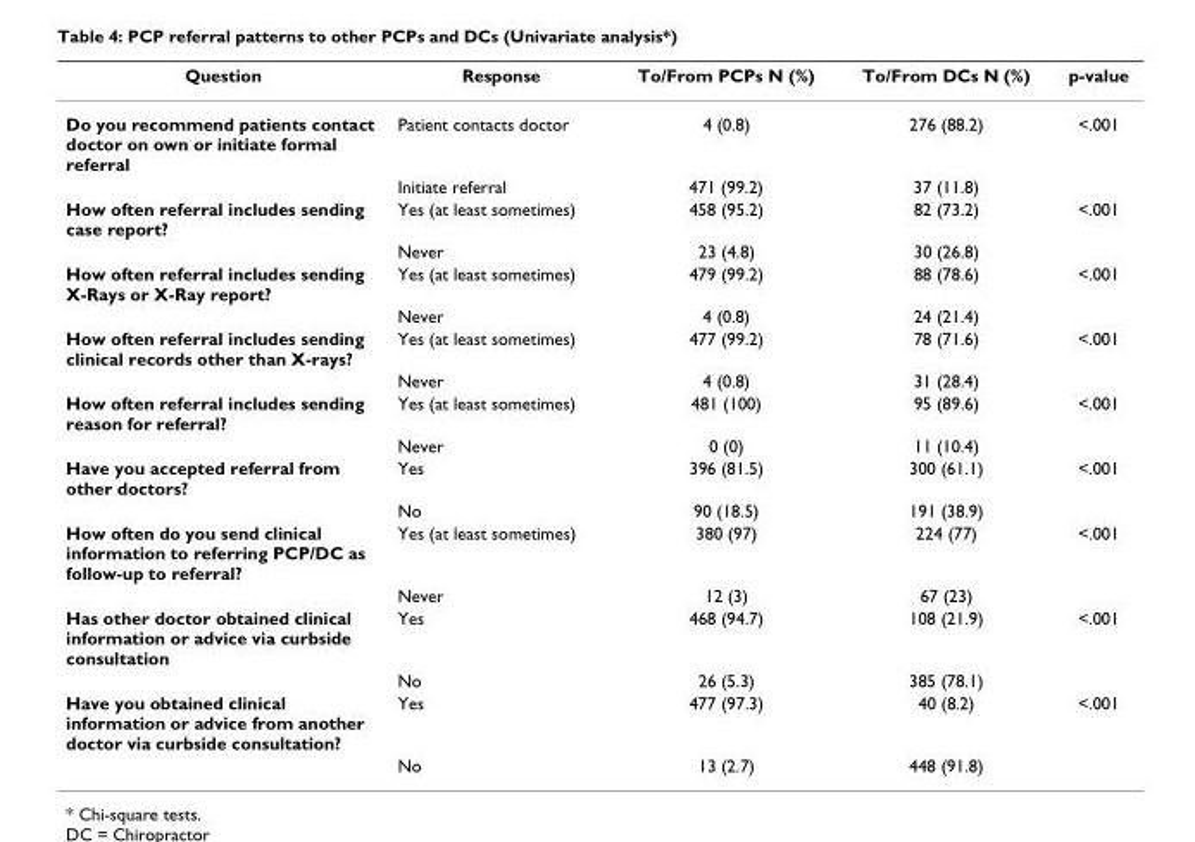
<table><thead><tr><td>Question</td><td>Response</td><td>To/From PCPs N (%)</td><td>To/From DCs N (%)</td><td>p-value</td></tr></thead><tbody><tr><td rowspan="2">Do you recommend patients contact doctor on own or initiate formal referral</td><td>Patient contacts doctor</td><td>4 (0.8)</td><td>276 (88.2)</td><td>&lt;.001</td></tr><tr><td>Initiate referral</td><td>471 (99.2)</td><td>37 (11.8)</td><td></td></tr><tr><td rowspan="2">How often referral includes sending case report?</td><td>Yes (at least sometimes)</td><td>458 (95.2)</td><td>82 (73.2)</td><td>&lt;.001</td></tr><tr><td>Never</td><td>23 (4.8)</td><td>30 (26.8)</td><td></td></tr><tr><td rowspan="2">How often referral includes sending X-Rays or X-Ray report?</td><td>Yes (at least sometimes)</td><td>479 (99.2)</td><td>88 (78.6)</td><td>&lt;.001</td></tr><tr><td>Never</td><td>4 (0.8)</td><td>24 (21.4)</td><td></td></tr><tr><td rowspan="2">How often referral includes sending clinical records other than X-rays?</td><td>Yes (at least sometimes)</td><td>477 (99.2)</td><td>78 (71.6)</td><td>&lt;.001</td></tr><tr><td>Never</td><td>4 (0.8)</td><td>31 (28.4)</td><td></td></tr><tr><td rowspan="2">How often referral includes sending reason for referral?</td><td>Yes (at least sometimes)</td><td>481 (100)</td><td>95 (89.6)</td><td>&lt;.001</td></tr><tr><td>Never</td><td>0 (0)</td><td>11 (10.4)</td><td></td></tr><tr><td rowspan="2">Have you accepted referral from other doctors?</td><td>Yes</td><td>396 (81.5)</td><td>300 (61.1)</td><td>&lt;.001</td></tr><tr><td>No</td><td>90 (18.5)</td><td>191 (38.9)</td><td></td></tr><tr><td rowspan="2">How often do you send clinical information to referring PCP/DC as follow-up to referral?</td><td>Yes (at least sometimes)</td><td>380 (97)</td><td>224 (77)</td><td>&lt;.001</td></tr><tr><td>Never</td><td>12 (3)</td><td>67 (23)</td><td></td></tr><tr><td rowspan="2">Has other doctor obtained clinical information or advice via curbside consultation</td><td>Yes</td><td>468 (94.7)</td><td>108 (21.9)</td><td>&lt;.001</td></tr><tr><td>No</td><td>26 (5.3)</td><td>385 (78.1)</td><td></td></tr><tr><td rowspan="2">Have you obtained clinical information or advice from another doctor via curbside consultation?</td><td>Yes</td><td>477 (97.3)</td><td>40 (8.2)</td><td>&lt;.001</td></tr><tr><td>No</td><td>13 (2.7)</td><td>448 (91.8)</td><td></td></tr></tbody></table>